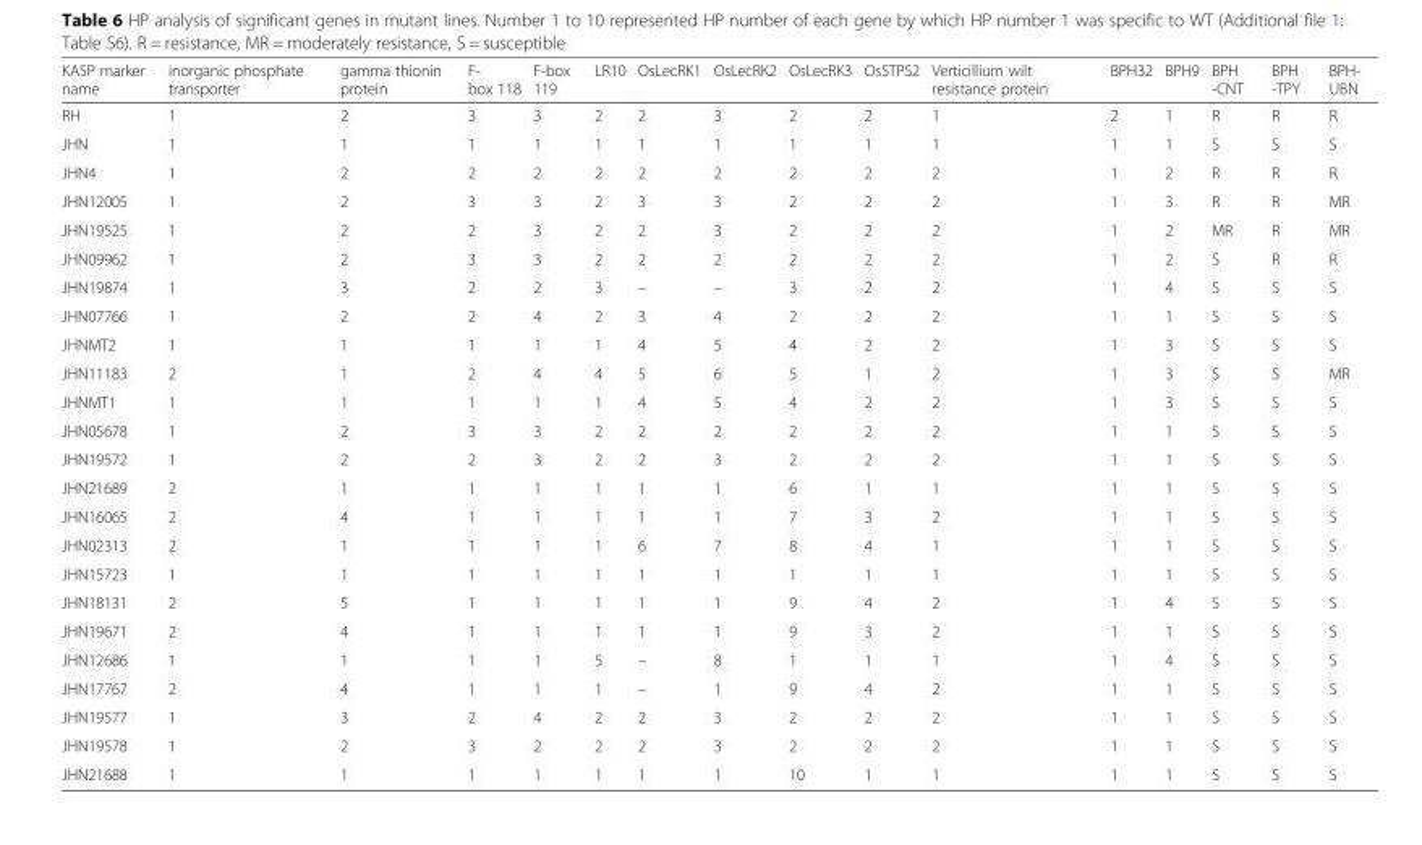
<table><thead><tr><td>KASP marker name</td><td>inorganic phosphate transporter</td><td>gamma thionin protein</td><td>F- box 118</td><td>F-box 119</td><td>LR10</td><td>OsLecRK1</td><td>OsLecRK2</td><td>OsLecRK3</td><td>OsSTPS2</td><td>Verticillium wilt resistance protein</td><td>BPH32</td><td>BPH9</td><td>BPH -CNT</td><td>BPH -TPY</td><td>BPH- UBN</td></tr></thead><tbody><tr><td>RH</td><td>1</td><td>2</td><td>3</td><td>3</td><td>2</td><td>2</td><td>3</td><td>2</td><td>2</td><td>1</td><td>2</td><td>1</td><td>R</td><td>R</td><td>R</td></tr><tr><td>JHN</td><td>1</td><td>1</td><td>1</td><td>1</td><td>1</td><td>1</td><td>1</td><td>1</td><td>1</td><td>1</td><td>1</td><td>1</td><td>S</td><td>S</td><td>S</td></tr><tr><td>JHN4</td><td>1</td><td>2</td><td>2</td><td>2</td><td>2</td><td>2</td><td>2</td><td>2</td><td>2</td><td>2</td><td>1</td><td>2</td><td>R</td><td>R</td><td>R</td></tr><tr><td>JHN12005</td><td>1</td><td>2</td><td>3</td><td>3</td><td>2</td><td>3</td><td>3</td><td>2</td><td>2</td><td>2</td><td>1</td><td>3</td><td>R</td><td>R</td><td>MR</td></tr><tr><td>JHN19525</td><td>1</td><td>2</td><td>2</td><td>3</td><td>2</td><td>2</td><td>3</td><td>2</td><td>2</td><td>2</td><td>1</td><td>2</td><td>MR</td><td>R</td><td>MR</td></tr><tr><td>JHN09962</td><td>1</td><td>2</td><td>3</td><td>3</td><td>2</td><td>2</td><td>2</td><td>2</td><td>2</td><td>2</td><td>1</td><td>2</td><td>S</td><td>R</td><td>R</td></tr><tr><td>JHN19874</td><td>1</td><td>3</td><td>2</td><td>2</td><td>3</td><td>–</td><td>–</td><td>3</td><td>2</td><td>2</td><td>1</td><td>4</td><td>S</td><td>S</td><td>S</td></tr><tr><td>JHN07766</td><td>1</td><td>2</td><td>2</td><td>4</td><td>2</td><td>3</td><td>4</td><td>2</td><td>2</td><td>2</td><td>1</td><td>1</td><td>S</td><td>S</td><td>S</td></tr><tr><td>JHNMT2</td><td>1</td><td>1</td><td>1</td><td>1</td><td>1</td><td>4</td><td>5</td><td>4</td><td>2</td><td>2</td><td>1</td><td>3</td><td>S</td><td>S</td><td>S</td></tr><tr><td>JHN11183</td><td>2</td><td>1</td><td>2</td><td>4</td><td>4</td><td>5</td><td>6</td><td>5</td><td>1</td><td>2</td><td>1</td><td>3</td><td>S</td><td>S</td><td>MR</td></tr><tr><td>JHNMT1</td><td>1</td><td>1</td><td>1</td><td>1</td><td>1</td><td>4</td><td>5</td><td>4</td><td>2</td><td>2</td><td>1</td><td>3</td><td>S</td><td>S</td><td>S</td></tr><tr><td>JHN05678</td><td>1</td><td>2</td><td>3</td><td>3</td><td>2</td><td>2</td><td>2</td><td>2</td><td>2</td><td>2</td><td>1</td><td>1</td><td>S</td><td>S</td><td>S</td></tr><tr><td>JHN19572</td><td>1</td><td>2</td><td>2</td><td>3</td><td>2</td><td>2</td><td>3</td><td>2</td><td>2</td><td>2</td><td>1</td><td>1</td><td>S</td><td>S</td><td>S</td></tr><tr><td>JHN21689</td><td>2</td><td>1</td><td>1</td><td>1</td><td>1</td><td>1</td><td>1</td><td>6</td><td>1</td><td>1</td><td>1</td><td>1</td><td>S</td><td>S</td><td>S</td></tr><tr><td>JHN16065</td><td>2</td><td>4</td><td>1</td><td>1</td><td>1</td><td>1</td><td>1</td><td>7</td><td>3</td><td>2</td><td>1</td><td>1</td><td>S</td><td>S</td><td>S</td></tr><tr><td>JHN02313</td><td>2</td><td>1</td><td>1</td><td>1</td><td>1</td><td>6</td><td>7</td><td>8</td><td>4</td><td>1</td><td>1</td><td>1</td><td>S</td><td>S</td><td>S</td></tr><tr><td>JHN15723</td><td>1</td><td>1</td><td>1</td><td>1</td><td>1</td><td>1</td><td>1</td><td>1</td><td>1</td><td>1</td><td>1</td><td>1</td><td>S</td><td>S</td><td>S</td></tr><tr><td>JHN18131</td><td>2</td><td>5</td><td>1</td><td>1</td><td>1</td><td>1</td><td>1</td><td>9</td><td>4</td><td>2</td><td>1</td><td>4</td><td>S</td><td>S</td><td>S</td></tr><tr><td>JHN19671</td><td>2</td><td>4</td><td>1</td><td>1</td><td>1</td><td>1</td><td>1</td><td>9</td><td>3</td><td>2</td><td>1</td><td>1</td><td>S</td><td>S</td><td>S</td></tr><tr><td>JHN12686</td><td>1</td><td>1</td><td>1</td><td>1</td><td>5</td><td>–</td><td>8</td><td>1</td><td>1</td><td>1</td><td>1</td><td>4</td><td>S</td><td>S</td><td>S</td></tr><tr><td>JHN17767</td><td>2</td><td>4</td><td>1</td><td>1</td><td>1</td><td>–</td><td>1</td><td>9</td><td>4</td><td>2</td><td>1</td><td>1</td><td>S</td><td>S</td><td>S</td></tr><tr><td>JHN19577</td><td>1</td><td>3</td><td>2</td><td>4</td><td>2</td><td>2</td><td>3</td><td>2</td><td>2</td><td>2</td><td>1</td><td>1</td><td>S</td><td>S</td><td>S</td></tr><tr><td>JHN19578</td><td>1</td><td>2</td><td>3</td><td>2</td><td>2</td><td>2</td><td>3</td><td>2</td><td>2</td><td>2</td><td>1</td><td>1</td><td>S</td><td>S</td><td>S</td></tr><tr><td>JHN21688</td><td>1</td><td>1</td><td>1</td><td>1</td><td>1</td><td>1</td><td>1</td><td>10</td><td>1</td><td>1</td><td>1</td><td>1</td><td>S</td><td>S</td><td>S</td></tr></tbody></table>